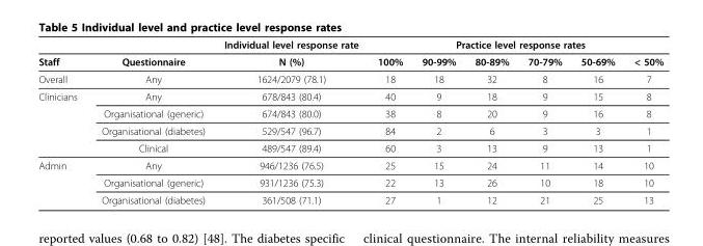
<table><thead><tr><td rowspan="2">Staff</td><td rowspan="2">Questionnaire</td><td rowspan="2">Individual level response rate N (%)</td><td colspan="6">Practice level response rates</td></tr><tr><td>100%</td><td>90-99%</td><td>80-89%</td><td>70-79%</td><td>50-69%</td><td>&lt; 50%</td></tr></thead><tbody><tr><td>Overall</td><td>Any</td><td>1624/2079 (78.1)</td><td>18</td><td>18</td><td>32</td><td>8</td><td>16</td><td>7</td></tr><tr><td rowspan="4">Clinicians</td><td>Any</td><td>678/843 (80.4)</td><td>40</td><td>9</td><td>18</td><td>9</td><td>15</td><td>8</td></tr><tr><td>Organisational (generic)</td><td>674/843 (80.0)</td><td>38</td><td>8</td><td>20</td><td>9</td><td>16</td><td>8</td></tr><tr><td>Organisational (diabetes)</td><td>529/547 (96.7)</td><td>84</td><td>2</td><td>6</td><td>3</td><td>3</td><td>1</td></tr><tr><td>Clinical</td><td>489/547 (89.4)</td><td>60</td><td>3</td><td>13</td><td>9</td><td>13</td><td>1</td></tr><tr><td rowspan="3">Admin</td><td>Any</td><td>946/1236 (76.5)</td><td>25</td><td>15</td><td>24</td><td>11</td><td>14</td><td>10</td></tr><tr><td>Organisational (generic)</td><td>931/1236 (75.3)</td><td>22</td><td>13</td><td>26</td><td>10</td><td>18</td><td>10</td></tr><tr><td>Organisational (diabetes)</td><td>361/508 (71.1)</td><td>27</td><td>1</td><td>12</td><td>21</td><td>25</td><td>13</td></tr></tbody></table>